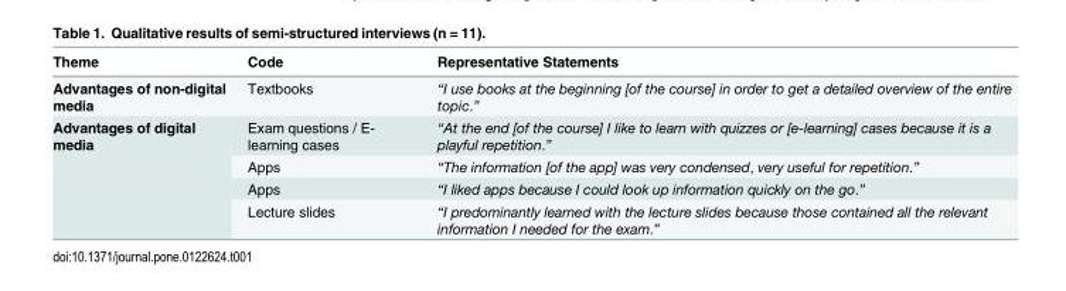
<table><thead><tr><td>Theme</td><td>Code</td><td>Representative Statements</td></tr></thead><tbody><tr><td>Advantages of non-digital media</td><td>Textbooks</td><td>“I use books at the beginning [of the course] in order to get a detailed overview of the entire topic.”</td></tr><tr><td rowspan="4">Advantages of digital media</td><td>Exam questions / E- learning cases</td><td>“At the end [of the course] I like to learn with quizzes or [e-learning] cases because it is a playful repetition.”</td></tr><tr><td>Apps</td><td>“The information [of the app] was very condensed, very useful for repetition.”</td></tr><tr><td>Apps</td><td>“I liked apps because I could look up information quickly on the go.”</td></tr><tr><td>Lecture slides</td><td>“I predominantly learned with the lecture slides because those contained all the relevant information I needed for the exam.”</td></tr></tbody></table>